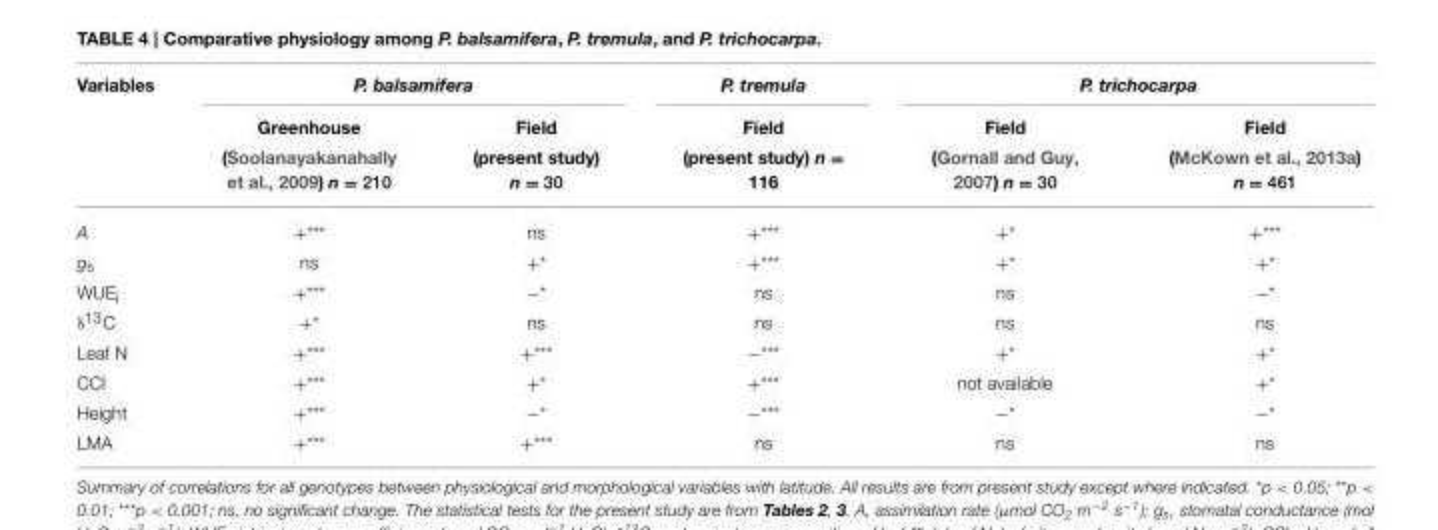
<table><thead><tr><td rowspan="2">Variables</td><td colspan="2">P. balsamifera</td><td rowspan="2">P. tremula Field (present study) n = 116</td><td colspan="2">P. trichocarpa</td></tr><tr><td>Greenhouse (Soolanayakanahally et al., 2009) n = 210</td><td>Field (present study) n = 30</td><td>Field (Gornall and Guy, 2007) n = 30</td><td>Field (McKown et al., 2013a) n = 461</td></tr></thead><tbody><tr><td>A</td><td>+***</td><td>ns</td><td>+***</td><td>+*</td><td>+***</td></tr><tr><td>g<sub>s</sub></td><td>ns</td><td>+*</td><td>+***</td><td>+*</td><td>+*</td></tr><tr><td>WUE<sub>i</sub></td><td>+***</td><td>−*</td><td>ns</td><td>ns</td><td>−*</td></tr><tr><td>δ<sup>13</sup>C</td><td>+*</td><td>ns</td><td>ns</td><td>ns</td><td>ns</td></tr><tr><td>Leaf N</td><td>+***</td><td>+***</td><td>−***</td><td>+*</td><td>+*</td></tr><tr><td>CCI</td><td>+***</td><td>+*</td><td>+***</td><td>not available</td><td>+*</td></tr><tr><td>Height</td><td>+***</td><td>−*</td><td>−***</td><td>−*</td><td>−*</td></tr><tr><td>LMA</td><td>+***</td><td>+***</td><td>ns</td><td>ns</td><td>ns</td></tr></tbody></table>